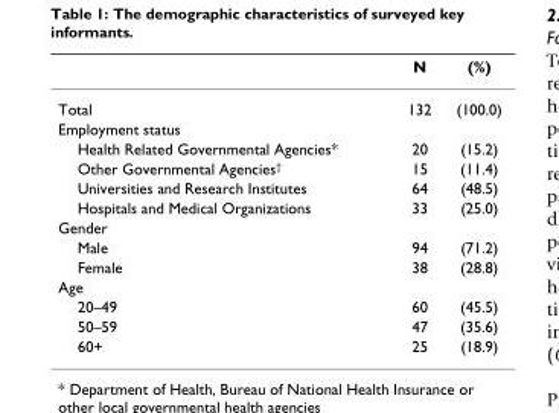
<table><thead><tr><td></td><td>N</td><td>(%)</td></tr></thead><tbody><tr><td>Total</td><td>132</td><td>(100.0)</td></tr><tr><td colspan="3">Employment status</td></tr><tr><td>Health Related Governmental Agencies*</td><td>20</td><td>(15.2)</td></tr><tr><td>Other Governmental Agencies†</td><td>15</td><td>(11.4)</td></tr><tr><td>Universities and Research Institutes</td><td>64</td><td>(48.5)</td></tr><tr><td>Hospitals and Medical Organizations</td><td>33</td><td>(25.0)</td></tr><tr><td colspan="3">Gender</td></tr><tr><td>Male</td><td>94</td><td>(71.2)</td></tr><tr><td>Female</td><td>38</td><td>(28.8)</td></tr><tr><td colspan="3">Age</td></tr><tr><td>20–49</td><td>60</td><td>(45.5)</td></tr><tr><td>50–59</td><td>47</td><td>(35.6)</td></tr><tr><td>60+</td><td>25</td><td>(18.9)</td></tr></tbody></table>